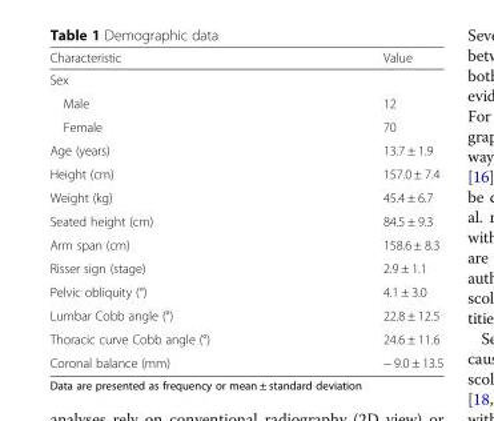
<table><thead><tr><td>Characteristic</td><td>Value</td></tr></thead><tbody><tr><td colspan="2">Sex</td></tr><tr><td>Male</td><td>12</td></tr><tr><td>Female</td><td>70</td></tr><tr><td>Age (years)</td><td>13.7 ± 1.9</td></tr><tr><td>Height (cm)</td><td>157.0 ± 7.4</td></tr><tr><td>Weight (kg)</td><td>45.4 ± 6.7</td></tr><tr><td>Seated height (cm)</td><td>84.5 ± 9.3</td></tr><tr><td>Arm span (cm)</td><td>158.6 ± 8.3</td></tr><tr><td>Risser sign (stage)</td><td>2.9 ± 1.1</td></tr><tr><td>Pelvic obliquity (°)</td><td>4.1 ± 3.0</td></tr><tr><td>Lumbar Cobb angle (°)</td><td>22.8 ± 12.5</td></tr><tr><td>Thoracic curve Cobb angle (°)</td><td>24.6 ± 11.6</td></tr><tr><td>Coronal balance (mm)</td><td>− 9.0 ± 13.5</td></tr></tbody></table>